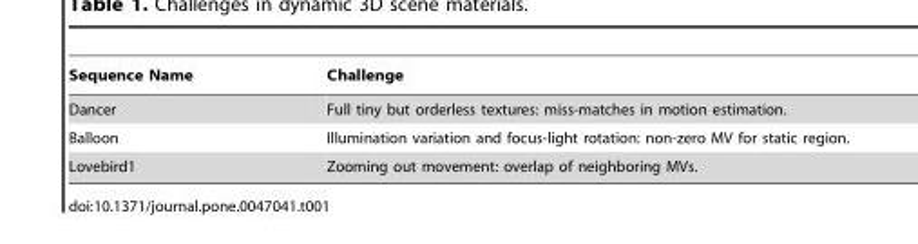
<table><thead><tr><td>Sequence Name</td><td>Challenge</td></tr></thead><tbody><tr><td>Dancer</td><td>Full tiny but orderless textures: miss-matches in motion estimation.</td></tr><tr><td>Balloon</td><td>Illumination variation and focus-light rotation: non-zero MV for static region.</td></tr><tr><td>Lovebird1</td><td>Zooming out movement: overlap of neighboring MVs.</td></tr></tbody></table>